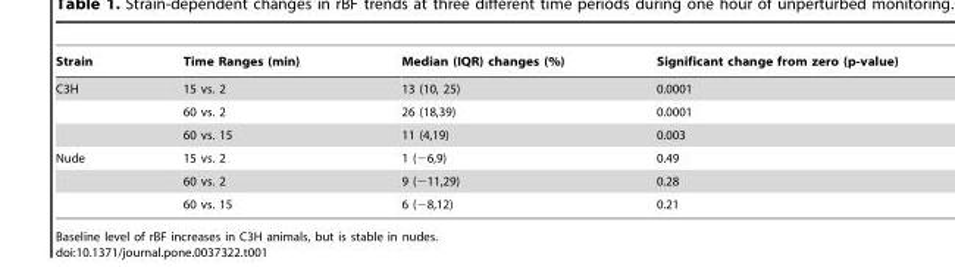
<table><thead><tr><td>Strain</td><td>Time Ranges (min)</td><td>Median (IQR) changes (%)</td><td>Significant change from zero (p-value)</td></tr></thead><tbody><tr><td rowspan="3">C3H</td><td>15 vs. 2</td><td>13 (10, 25)</td><td>0.0001</td></tr><tr><td>60 vs. 2</td><td>26 (18,39)</td><td>0.0001</td></tr><tr><td>60 vs. 15</td><td>11 (4,19)</td><td>0.003</td></tr><tr><td rowspan="3">Nude</td><td>15 vs. 2</td><td>1 (−6,9)</td><td>0.49</td></tr><tr><td>60 vs. 2</td><td>9 (−11,29)</td><td>0.28</td></tr><tr><td>60 vs. 15</td><td>6 (−8,12)</td><td>0.21</td></tr></tbody></table>